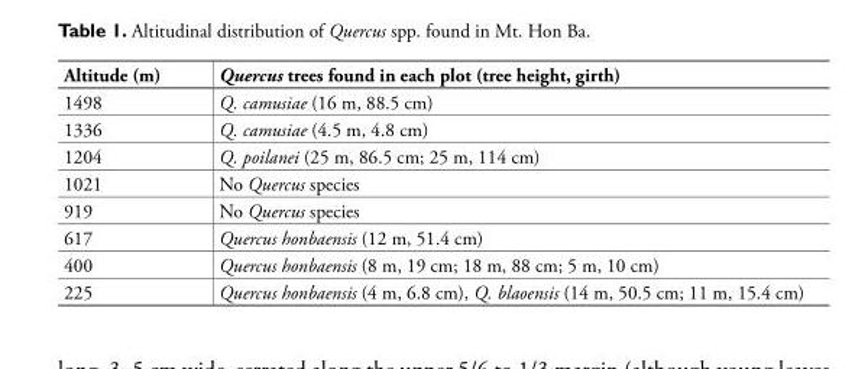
<table><thead><tr><td>Altitude (m)</td><td>Quercus trees found in each plot (tree height, girth)</td></tr></thead><tbody><tr><td>1498</td><td>Q. camusiae (16 m, 88.5 cm)</td></tr><tr><td>1336</td><td>Q. camusiae (4.5 m, 4.8 cm)</td></tr><tr><td>1204</td><td>Q. poilanei (25 m, 86.5 cm; 25 m, 114 cm)</td></tr><tr><td>1021</td><td>No Quercus species</td></tr><tr><td>919</td><td>No Quercus species</td></tr><tr><td>617</td><td>Quercus honbaensis (12 m, 51.4 cm)</td></tr><tr><td>400</td><td>Quercus honbaensis (8 m, 19 cm; 18 m, 88 cm; 5 m, 10 cm)</td></tr><tr><td>225</td><td>Quercus honbaensis (4 m, 6.8 cm), Q. blaoensis (14 m, 50.5 cm; 11 m, 15.4 cm)</td></tr></tbody></table>